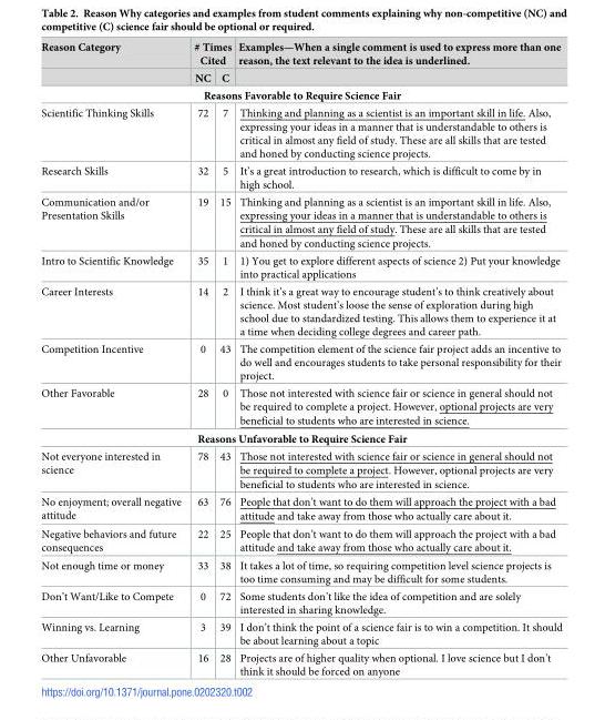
<table><thead><tr><td rowspan="2">Reason Category</td><td colspan="2"># Times Cited</td><td rowspan="2">Examples—When a single comment is used to express more than one reason, the text relevant to the idea is underlined.</td></tr><tr><td>NC</td><td>C</td></tr></thead><tbody><tr><td colspan="4">Reasons Favorable to Require Science Fair</td></tr><tr><td>Scientific Thinking Skills</td><td>72</td><td>7</td><td>Thinking and planning as a scientist is an important skill in life. Also, expressing your ideas in a manner that is understandable to others is critical in almost any field of study. These are all skills that are tested and honed by conducting science projects.</td></tr><tr><td>Research Skills</td><td>32</td><td>5</td><td>It’s a great introduction to research, which is difficult to come by in high school.</td></tr><tr><td>Communication and/or Presentation Skills</td><td>19</td><td>15</td><td>Thinking and planning as a scientist is an important skill in life. Also, expressing your ideas in a manner that is understandable to others is critical in almost any field of study. These are all skills that are tested and honed by conducting science projects.</td></tr><tr><td>Intro to Scientific Knowledge</td><td>35</td><td>1</td><td>1) You get to explore different aspects of science 2) Put your knowledge into practical applications</td></tr><tr><td>Career Interests</td><td>14</td><td>2</td><td>I think it’s a great way to encourage student’s to think creatively about science. Most student’s loose the sense of exploration during high school due to standardized testing. This allows them to experience it at a time when deciding college degrees and career path.</td></tr><tr><td>Competition Incentive</td><td>0</td><td>43</td><td>The competition element of the science fair project adds an incentive to do well and encourages students to take personal responsibility for their project.</td></tr><tr><td>Other Favorable</td><td>28</td><td>0</td><td>Those not interested with science fair or science in general should not be required to complete a project. However, optional projects are very beneficial to students who are interested in science.</td></tr><tr><td colspan="4">Reasons Unfavorable to Require Science Fair</td></tr><tr><td>Not everyone interested in science</td><td>78</td><td>43</td><td>Those not interested with science fair or science in general should not be required to complete a project. However, optional projects are very beneficial to students who are interested in science.</td></tr><tr><td>No enjoyment; overall negative attitude</td><td>63</td><td>76</td><td>People that don’t want to do them will approach the project with a bad attitude and take away from those who actually care about it.</td></tr><tr><td>Negative behaviors and future consequences</td><td>22</td><td>25</td><td>People that don’t want to do them will approach the project with a bad attitude and take away from those who actually care about it.</td></tr><tr><td>Not enough time or money</td><td>33</td><td>38</td><td>It takes a lot of time, so requiring competition level science projects is too time consuming and may be difficult for some students.</td></tr><tr><td>Don’t Want/Like to Compete</td><td>0</td><td>72</td><td>Some students don’t like the idea of competition and are solely interested in sharing knowledge.</td></tr><tr><td>Winning vs. Learning</td><td>3</td><td>39</td><td>I don’t think the point of a science fair is to win a competition. It should be about learning about a topic</td></tr><tr><td>Other Unfavorable</td><td>16</td><td>28</td><td>Projects are of higher quality when optional. I love science but I don’t think it should be forced on anyone</td></tr></tbody></table>